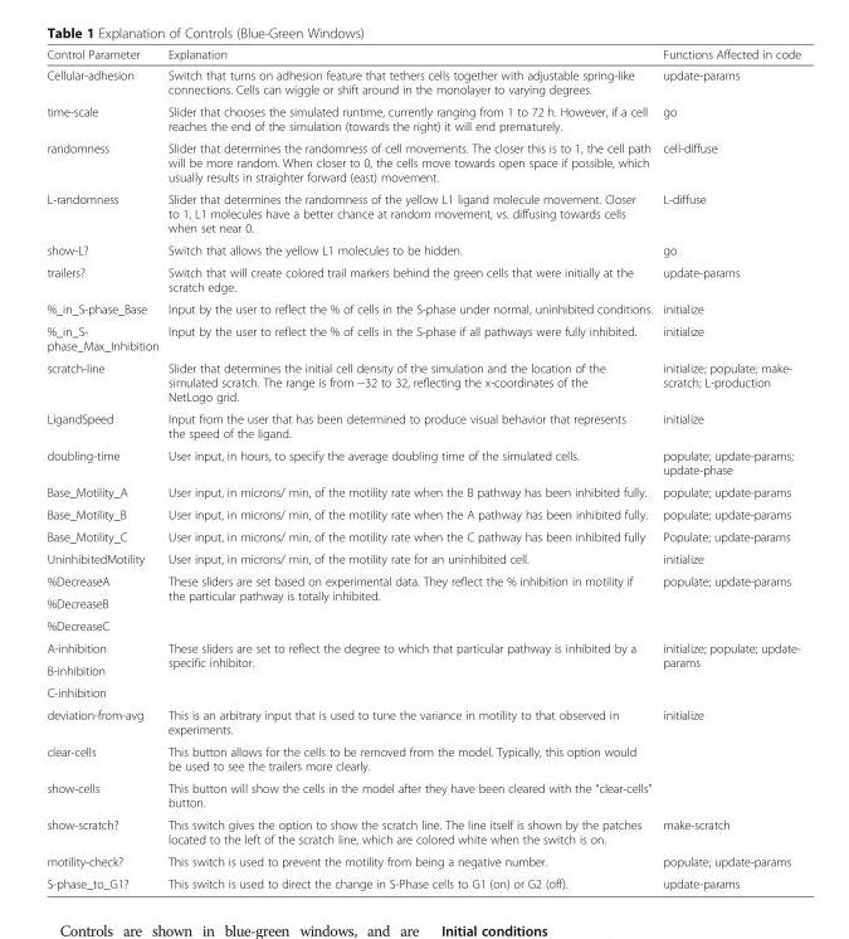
<table><thead><tr><td>Control Parameter</td><td>Explanation</td><td>Functions Affected in code</td></tr></thead><tbody><tr><td>Cellular-adhesion</td><td>Switch that turns on adhesion feature that tethers cells together with adjustable spring-like connections. Cells can wiggle or shift around in the monolayer to varying degrees.</td><td>update-params</td></tr><tr><td>time-scale</td><td>Slider that chooses the simulated runtime, currently ranging from 1 to 72 h. However, if a cell reaches the end of the simulation (towards the right) it will end prematurely.</td><td>go</td></tr><tr><td>randomness</td><td>Slider that determines the randomness of cell movements. The closer this is to 1, the cell path will be more random. When closer to 0, the cells move towards open space if possible, which usually results in straighter forward (east) movement.</td><td>cell-diffuse</td></tr><tr><td>L-randomness</td><td>Slider that determines the randomness of the yellow L1 ligand molecule movement. Closer to 1, L1 molecules have a better chance at random movement, vs. diffusing towards cells when set near 0.</td><td>L-diffuse</td></tr><tr><td>show-L?</td><td>Switch that allows the yellow L1 molecules to be hidden.</td><td>go</td></tr><tr><td>trailers?</td><td>Switch that will create colored trail markers behind the green cells that were initially at the scratch edge.</td><td>update-params</td></tr><tr><td>%_in_S-phase_Base</td><td>Input by the user to reflect the % of cells in the S-phase under normal, uninhibited conditions.</td><td>initialize</td></tr><tr><td>%_in_S- phase_Max_Inhibition</td><td>Input by the user to reflect the % of cells in the S-phase if all pathways were fully inhibited.</td><td>initialize</td></tr><tr><td>scratch-line</td><td>Slider that determines the initial cell density of the simulation and the location of the simulated scratch. The range is from −32 to 32, reflecting the x-coordinates of the NetLogo grid.</td><td>initialize; populate; make- scratch; L-production</td></tr><tr><td>LigandSpeed</td><td>Input from the user that has been determined to produce visual behavior that represents the speed of the ligand.</td><td>initialize</td></tr><tr><td>doubling-time</td><td>User input, in hours, to specify the average doubling time of the simulated cells.</td><td>populate; update-params; update-phase</td></tr><tr><td>Base_Motility_A</td><td>User input, in microns/ min, of the motility rate when the B pathway has been inhibited fully.</td><td>populate; update-params</td></tr><tr><td>Base_Motility_B</td><td>User input, in microns/ min, of the motility rate when the A pathway has been inhibited fully.</td><td>populate; update-params</td></tr><tr><td>Base_Motility_C</td><td>User input, in microns/ min, of the motility rate when the C pathway has been inhibited fully</td><td>Populate; update-params</td></tr><tr><td>UninhibitedMotility</td><td>User input, in microns/ min, of the motility rate for an uninhibited cell.</td><td>initialize</td></tr><tr><td>%DecreaseA</td><td rowspan="3">These sliders are set based on experimental data. They reflect the % inhibition in motility if the particular pathway is totally inhibited.</td><td rowspan="3">populate; update-params</td></tr><tr><td>%DecreaseB</td></tr><tr><td>%DecreaseC</td></tr><tr><td>A-inhibition</td><td rowspan="3">These sliders are set to reflect the degree to which that particular pathway is inhibited by a specific inhibitor.</td><td rowspan="3">initialize; populate; update- params</td></tr><tr><td>B-inhibition</td></tr><tr><td>C-inhibition</td></tr><tr><td>deviation-from-avg</td><td>This is an arbitrary input that is used to tune the variance in motility to that observed in experiments.</td><td>initialize</td></tr><tr><td>clear-cells</td><td>This button allows for the cells to be removed from the model. Typically, this option would be used to see the trailers more clearly.</td><td></td></tr><tr><td>show-cells</td><td>This button will show the cells in the model after they have been cleared with the “clear-cells” button.</td><td></td></tr><tr><td>show-scratch?</td><td>This switch gives the option to show the scratch line. The line itself is shown by the patches located to the left of the scratch line, which are colored white when the switch is on.</td><td>make-scratch</td></tr><tr><td>motility-check?</td><td>This switch is used to prevent the motility from being a negative number.</td><td>populate; update-params</td></tr><tr><td>S-phase_to_G1?</td><td>This switch is used to direct the change in S-Phase cells to G1 (on) or G2 (off).</td><td>update-params</td></tr></tbody></table>